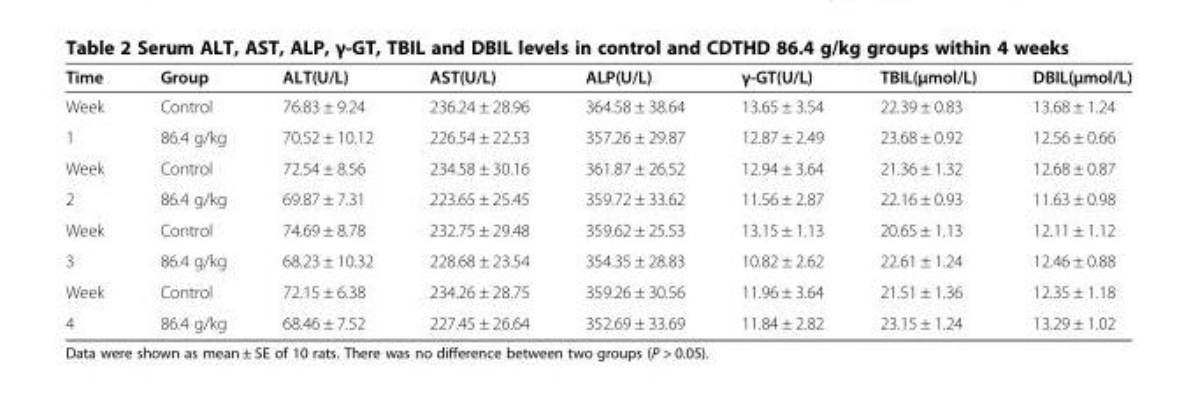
<table><thead><tr><td>Time</td><td>Group</td><td>ALT(U/L)</td><td>AST(U/L)</td><td>ALP(U/L)</td><td>γ-GT(U/L)</td><td>TBIL(μmol/L)</td><td>DBIL(μmol/L)</td></tr></thead><tbody><tr><td>Week</td><td>Control</td><td>76.83 ± 9.24</td><td>236.24 ± 28.96</td><td>364.58 ± 38.64</td><td>13.65 ± 3.54</td><td>22.39 ± 0.83</td><td>13.68 ± 1.24</td></tr><tr><td>1</td><td>86.4 g/kg</td><td>70.52 ± 10.12</td><td>226.54 ± 22.53</td><td>357.26 ± 29.87</td><td>12.87 ± 2.49</td><td>23.68 ± 0.92</td><td>12.56 ± 0.66</td></tr><tr><td>Week</td><td>Control</td><td>72.54 ± 8.56</td><td>234.58 ± 30.16</td><td>361.87 ± 26.52</td><td>12.94 ± 3.64</td><td>21.36 ± 1.32</td><td>12.68 ± 0.87</td></tr><tr><td>2</td><td>86.4 g/kg</td><td>69.87 ± 7.31</td><td>223.65 ± 25.45</td><td>359.72 ± 33.62</td><td>11.56 ± 2.87</td><td>22.16 ± 0.93</td><td>11.63 ± 0.98</td></tr><tr><td>Week</td><td>Control</td><td>74.69 ± 8.78</td><td>232.75 ± 29.48</td><td>359.62 ± 25.53</td><td>13.15 ± 1.13</td><td>20.65 ± 1.13</td><td>12.11 ± 1.12</td></tr><tr><td>3</td><td>86.4 g/kg</td><td>68.23 ± 10.32</td><td>228.68 ± 23.54</td><td>354.35 ± 28.83</td><td>10.82 ± 2.62</td><td>22.61 ± 1.24</td><td>12.46 ± 0.88</td></tr><tr><td>Week</td><td>Control</td><td>72.15 ± 6.38</td><td>234.26 ± 28.75</td><td>359.26 ± 30.56</td><td>11.96 ± 3.64</td><td>21.51 ± 1.36</td><td>12.35 ± 1.18</td></tr><tr><td>4</td><td>86.4 g/kg</td><td>68.46 ± 7.52</td><td>227.45 ± 26.64</td><td>352.69 ± 33.69</td><td>11.84 ± 2.82</td><td>23.15 ± 1.24</td><td>13.29 ± 1.02</td></tr></tbody></table>